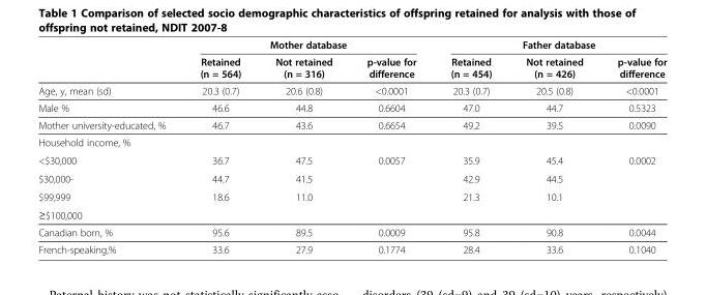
<table><thead><tr><td rowspan="2"></td><td colspan="3">Mother database</td><td colspan="3">Father database</td></tr><tr><td>Retained (n = 564)</td><td>Not retained (n = 316)</td><td>p-value for difference</td><td>Retained (n = 454)</td><td>Not retained (n = 426)</td><td>p-value for difference</td></tr></thead><tbody><tr><td>Age, y, mean (sd)</td><td>20.3 (0.7)</td><td>20.6 (0.8)</td><td>&lt;0.0001</td><td>20.3 (0.7)</td><td>20.5 (0.8)</td><td>&lt;0.0001</td></tr><tr><td>Male %</td><td>46.6</td><td>44.8</td><td>0.6604</td><td>47.0</td><td>44.7</td><td>0.5323</td></tr><tr><td>Mother university-educated, %</td><td>46.7</td><td>43.6</td><td>0.6654</td><td>49.2</td><td>39.5</td><td>0.0090</td></tr><tr><td colspan="7">Household income, %</td></tr><tr><td>&lt;$30,000</td><td>36.7</td><td>47.5</td><td>0.0057</td><td>35.9</td><td>45.4</td><td>0.0002</td></tr><tr><td>$30,000-</td><td>44.7</td><td>41.5</td><td></td><td>42.9</td><td>44.5</td><td></td></tr><tr><td>$99,999</td><td>18.6</td><td>11.0</td><td></td><td>21.3</td><td>10.1</td><td></td></tr><tr><td colspan="7">≥$100,000</td></tr><tr><td>Canadian born, %</td><td>95.6</td><td>89.5</td><td>0.0009</td><td>95.8</td><td>90.8</td><td>0.0044</td></tr><tr><td>French-speaking,%</td><td>33.6</td><td>27.9</td><td>0.1774</td><td>28.4</td><td>33.6</td><td>0.1040</td></tr></tbody></table>